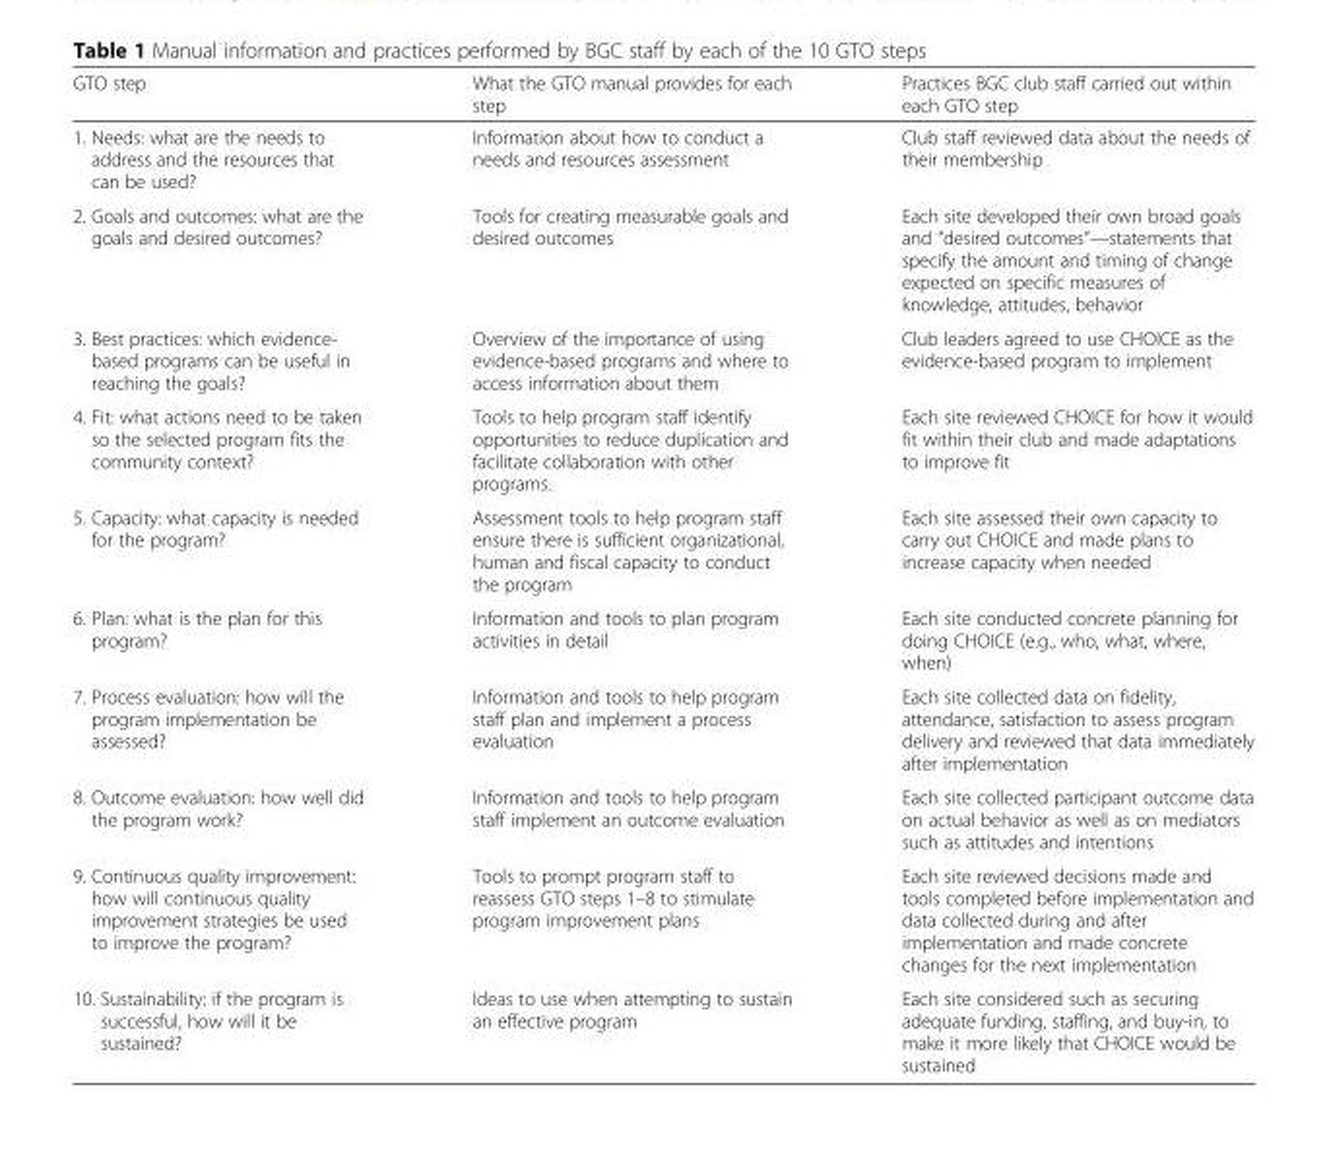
<table><thead><tr><td>GTO step</td><td>What the GTO manual provides for each step</td><td>Practices BGC club staff carried out within each GTO step</td></tr></thead><tbody><tr><td>1. Needs: what are the needs to address and the resources that can be used?</td><td>Information about how to conduct a needs and resources assessment</td><td>Club staff reviewed data about the needs of their membership</td></tr><tr><td>2. Goals and outcomes: what are the goals and desired outcomes?</td><td>Tools for creating measurable goals and desired outcomes</td><td>Each site developed their own broad goals and “desired outcomes”—statements that specify the amount and timing of change expected on specific measures of knowledge, attitudes, behavior</td></tr><tr><td>3. Best practices: which evidence- based programs can be useful in reaching the goals?</td><td>Overview of the importance of using evidence-based programs and where to access information about them</td><td>Club leaders agreed to use CHOICE as the evidence-based program to implement</td></tr><tr><td>4. Fit: what actions need to be taken so the selected program fits the community context?</td><td>Tools to help program staff identify opportunities to reduce duplication and facilitate collaboration with other programs.</td><td>Each site reviewed CHOICE for how it would fit within their club and made adaptations to improve fit</td></tr><tr><td>5. Capacity: what capacity is needed for the program?</td><td>Assessment tools to help program staff ensure there is sufficient organizational, human and fiscal capacity to conduct the program</td><td>Each site assessed their own capacity to carry out CHOICE and made plans to increase capacity when needed</td></tr><tr><td>6. Plan: what is the plan for this program?</td><td>Information and tools to plan program activities in detail</td><td>Each site conducted concrete planning for doing CHOICE (e.g., who, what, where, when)</td></tr><tr><td>7. Process evaluation: how will the program implementation be assessed?</td><td>Information and tools to help program staff plan and implement a process evaluation</td><td>Each site collected data on fidelity, attendance, satisfaction to assess program delivery and reviewed that data immediately after implementation</td></tr><tr><td>8. Outcome evaluation: how well did the program work?</td><td>Information and tools to help program staff implement an outcome evaluation</td><td>Each site collected participant outcome data on actual behavior as well as on mediators such as attitudes and intentions</td></tr><tr><td>9. Continuous quality improvement: how will continuous quality improvement strategies be used to improve the program?</td><td>Tools to prompt program staff to reassess GTO steps 1–8 to stimulate program improvement plans</td><td>Each site reviewed decisions made and tools completed before implementation and data collected during and after implementation and made concrete changes for the next implementation</td></tr><tr><td>10. Sustainability: if the program is successful, how will it be sustained?</td><td>Ideas to use when attempting to sustain an effective program</td><td>Each site considered such as securing adequate funding, staffing, and buy-in, to make it more likely that CHOICE would be sustained</td></tr></tbody></table>